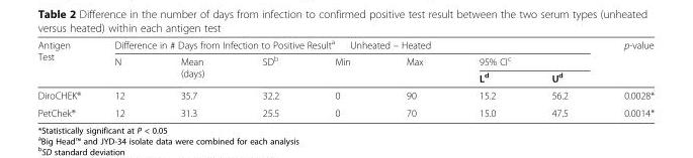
<table><thead><tr><td rowspan="3">Antigen Test</td><td colspan="7">Difference in # Days from Infection to Positive Result<sup>a</sup> Unheated – Heated</td><td rowspan="3">p-value</td></tr><tr><td rowspan="2">N</td><td rowspan="2">Mean (days)</td><td rowspan="2">SD<sup>b</sup></td><td rowspan="2">Min</td><td rowspan="2">Max</td><td colspan="2">95% CI<sup>c</sup></td></tr><tr><td>L<sup>d</sup></td><td>U<sup>d</sup></td></tr></thead><tbody><tr><td>DiroCHEK®</td><td>12</td><td>35.7</td><td>32.2</td><td>0</td><td>90</td><td>15.2</td><td>56.2</td><td>0.0028*</td></tr><tr><td>PetChek®</td><td>12</td><td>31.3</td><td>25.5</td><td>0</td><td>70</td><td>15.0</td><td>47.5</td><td>0.0014*</td></tr></tbody></table>